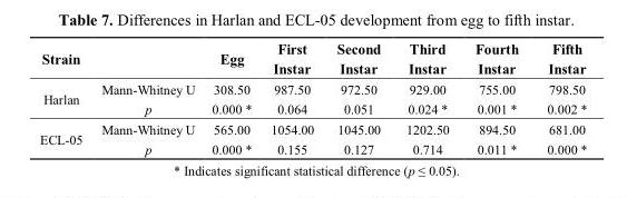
<table><thead><tr><td>Strain</td><td></td><td>Egg</td><td>First Instar</td><td>Second Instar</td><td>Third Instar</td><td>Fourth Instar</td><td>Fifth Instar</td></tr></thead><tbody><tr><td rowspan="2">Harlan</td><td>Mann-Whitney U</td><td>308.50</td><td>987.50</td><td>972.50</td><td>929.00</td><td>755.00</td><td>798.50</td></tr><tr><td>p</td><td>0.000 *</td><td>0.064</td><td>0.051</td><td>0.024 *</td><td>0.001 *</td><td>0.002 *</td></tr><tr><td rowspan="2">ECL-05</td><td>Mann-Whitney U</td><td>565.00</td><td>1054.00</td><td>1045.00</td><td>1202.50</td><td>894.50</td><td>681.00</td></tr><tr><td>p</td><td>0.000 *</td><td>0.155</td><td>0.127</td><td>0.714</td><td>0.011 *</td><td>0.000 *</td></tr></tbody></table>